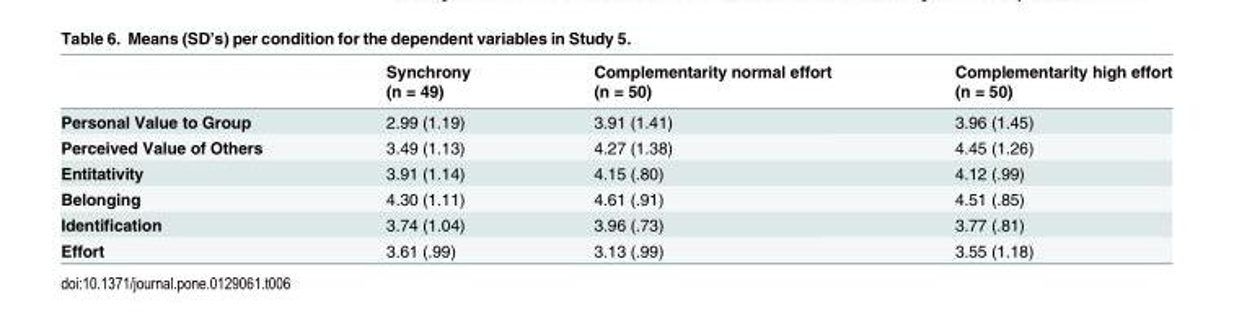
<table><thead><tr><td rowspan="2"></td><td rowspan="2">Synchrony (n = 49)</td><td rowspan="2">Complementarity normal effort (n = 50)</td><td rowspan="2">Complementarity high effort (n = 50)</td></tr><tr></tr></thead><tbody><tr><td>Personal Value to Group</td><td>2.99 (1.19)</td><td>3.91 (1.41)</td><td>3.96 (1.45)</td></tr><tr><td>Perceived Value of Others</td><td>3.49 (1.13)</td><td>4.27 (1.38)</td><td>4.45 (1.26)</td></tr><tr><td>Entitativity</td><td>3.91 (1.14)</td><td>4.15 (.80)</td><td>4.12 (.99)</td></tr><tr><td>Belonging</td><td>4.30 (1.11)</td><td>4.61 (.91)</td><td>4.51 (.85)</td></tr><tr><td>Identification</td><td>3.74 (1.04)</td><td>3.96 (.73)</td><td>3.77 (.81)</td></tr><tr><td>Effort</td><td>3.61 (.99)</td><td>3.13 (.99)</td><td>3.55 (1.18)</td></tr></tbody></table>